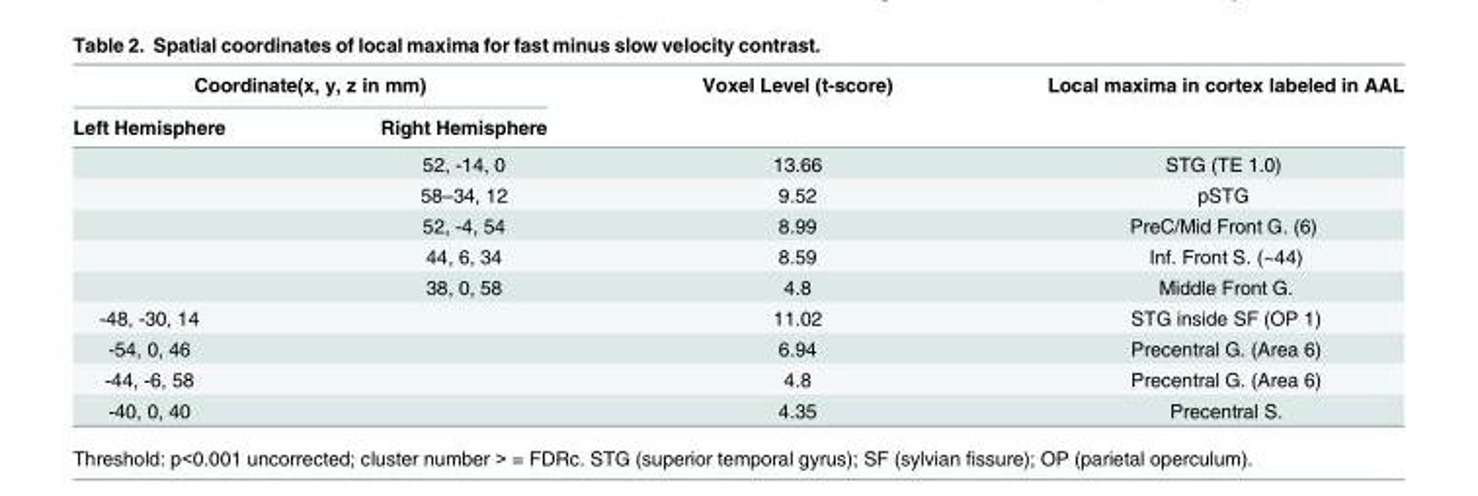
<table><thead><tr><td colspan="2">Coordinate(x, y, z in mm)</td><td rowspan="2">Voxel Level (t-score)</td><td rowspan="2">Local maxima in cortex labeled in AAL</td></tr><tr><td>Left Hemisphere</td><td>Right Hemisphere</td></tr></thead><tbody><tr><td></td><td>52, -14, 0</td><td>13.66</td><td>STG (TE 1.0)</td></tr><tr><td></td><td>58–34, 12</td><td>9.52</td><td>pSTG</td></tr><tr><td></td><td>52, -4, 54</td><td>8.99</td><td>PreC/Mid Front G. (6)</td></tr><tr><td></td><td>44, 6, 34</td><td>8.59</td><td>Inf. Front S. (~44)</td></tr><tr><td></td><td>38, 0, 58</td><td>4.8</td><td>Middle Front G.</td></tr><tr><td>-48, -30, 14</td><td></td><td>11.02</td><td>STG inside SF (OP 1)</td></tr><tr><td>-54, 0, 46</td><td></td><td>6.94</td><td>Precentral G. (Area 6)</td></tr><tr><td>-44, -6, 58</td><td></td><td>4.8</td><td>Precentral G. (Area 6)</td></tr><tr><td>-40, 0, 40</td><td></td><td>4.35</td><td>Precentral S.</td></tr></tbody></table>